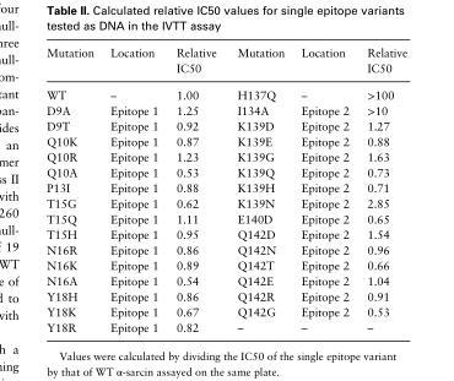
<table><thead><tr><td>Mutation</td><td>Location</td><td>Relative IC50</td><td>Mutation</td><td>Location</td><td>Relative IC50</td></tr></thead><tbody><tr><td>WT</td><td>–</td><td>1.00</td><td>H137Q</td><td>–</td><td>&gt;100</td></tr><tr><td>D9A</td><td>Epitope 1</td><td>1.25</td><td>I134A</td><td>Epitope 2</td><td>&gt;10</td></tr><tr><td>D9T</td><td>Epitope 1</td><td>0.92</td><td>K139D</td><td>Epitope 2</td><td>1.27</td></tr><tr><td>Q10K</td><td>Epitope 1</td><td>0.87</td><td>K139E</td><td>Epitope 2</td><td>0.88</td></tr><tr><td>Q10R</td><td>Epitope 1</td><td>1.23</td><td>K139G</td><td>Epitope 2</td><td>1.63</td></tr><tr><td>Q10A</td><td>Epitope 1</td><td>0.53</td><td>K139Q</td><td>Epitope 2</td><td>0.73</td></tr><tr><td>P13I</td><td>Epitope 1</td><td>0.88</td><td>K139H</td><td>Epitope 2</td><td>0.71</td></tr><tr><td>T15G</td><td>Epitope 1</td><td>0.62</td><td>K139N</td><td>Epitope 2</td><td>2.85</td></tr><tr><td>T15Q</td><td>Epitope 1</td><td>1.11</td><td>E140D</td><td>Epitope 2</td><td>0.65</td></tr><tr><td>T15H</td><td>Epitope 1</td><td>0.95</td><td>Q142D</td><td>Epitope 2</td><td>1.54</td></tr><tr><td>N16R</td><td>Epitope 1</td><td>0.86</td><td>Q142N</td><td>Epitope 2</td><td>0.96</td></tr><tr><td>N16K</td><td>Epitope 1</td><td>0.89</td><td>Q142T</td><td>Epitope 2</td><td>0.66</td></tr><tr><td>N16A</td><td>Epitope 1</td><td>0.54</td><td>Q142E</td><td>Epitope 2</td><td>1.04</td></tr><tr><td>Y18H</td><td>Epitope 1</td><td>0.86</td><td>Q142R</td><td>Epitope 2</td><td>0.91</td></tr><tr><td>Y18K</td><td>Epitope 1</td><td>0.67</td><td>Q142G</td><td>Epitope 2</td><td>0.53</td></tr><tr><td>Y18R</td><td>Epitope 1</td><td>0.82</td><td>–</td><td>–</td><td>–</td></tr></tbody></table>